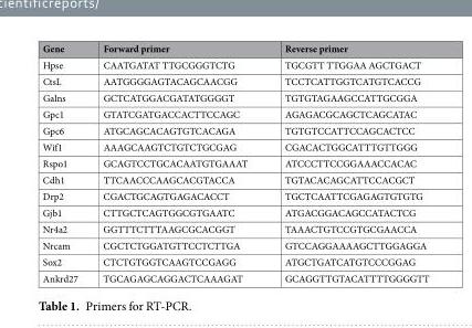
<table><thead><tr><td>Gene</td><td>Forward primer</td><td>Reverse primer</td></tr></thead><tbody><tr><td>Hpse</td><td>CAATGATAT TTGCGGGTCTG</td><td>TGCGTT TTGGAA AGCTGACT</td></tr><tr><td>CtsL</td><td>AATGGGGAGTACAGCAACGG</td><td>TCCTCATTGGTCATGTCACCG</td></tr><tr><td>Galns</td><td>GCTCATGGACGATATGGGGT</td><td>TGTGTAGAAGCCATTGCGGA</td></tr><tr><td>Gpc1</td><td>GTATCGATGACCACTTCCAGC</td><td>AGAGACGCAGCTCAGCATAC</td></tr><tr><td>Gpc6</td><td>ATGCAGCACAGTGTCACAGA</td><td>TGTGTCCATTCCAGCACTCC</td></tr><tr><td>Wif1</td><td>AAAGCAAGTCTGTCTGCGAG</td><td>CGACACTGGCATTTGTTGGG</td></tr><tr><td>Rspo1</td><td>GCAGTCCTGCACAATGTGAAAT</td><td>ATCCCTTCCGGAAACCACAC</td></tr><tr><td>Cdh1</td><td>TTCAACCCAAGCACGTACCA</td><td>TGTACACAGCATTCCACGCT</td></tr><tr><td>Drp2</td><td>CGACTGCAGTGAGACACCT</td><td>TGCTCAATTCGAGAGTGTGTG</td></tr><tr><td>Gjb1</td><td>CTTGCTCAGTGGCGTGAATC</td><td>ATGACGGACAGCCATACTCG</td></tr><tr><td>Nr4a2</td><td>GGTTTCTTTAAGCGCACGGT</td><td>TAAACTGTCCGTGCGAACCA</td></tr><tr><td>Nrcam</td><td>CGCTCTGGATGTTCCTCTTGA</td><td>GTCCAGGAAAAGCTTGGAGGA</td></tr><tr><td>Sox2</td><td>CTCTGTGGTCAAGTCCGAGG</td><td>ATGCTGATCATGTCCCGGAG</td></tr><tr><td>Ankrd27</td><td>TGCAGAGCAGGACTCAAAGAT</td><td>GCAGGTTGTACATTTTGGGGTT</td></tr></tbody></table>